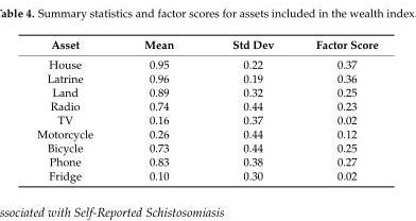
<table><thead><tr><td>Asset</td><td>Mean</td><td>Std Dev</td><td>Factor Score</td></tr></thead><tbody><tr><td>House</td><td>0.95</td><td>0.22</td><td>0.37</td></tr><tr><td>Latrine</td><td>0.96</td><td>0.19</td><td>0.36</td></tr><tr><td>Land</td><td>0.89</td><td>0.32</td><td>0.25</td></tr><tr><td>Radio</td><td>0.74</td><td>0.44</td><td>0.23</td></tr><tr><td>TV</td><td>0.16</td><td>0.37</td><td>0.02</td></tr><tr><td>Motorcycle</td><td>0.26</td><td>0.44</td><td>0.12</td></tr><tr><td>Bicycle</td><td>0.73</td><td>0.44</td><td>0.25</td></tr><tr><td>Phone</td><td>0.83</td><td>0.38</td><td>0.27</td></tr><tr><td>Fridge</td><td>0.10</td><td>0.30</td><td>0.02</td></tr></tbody></table>